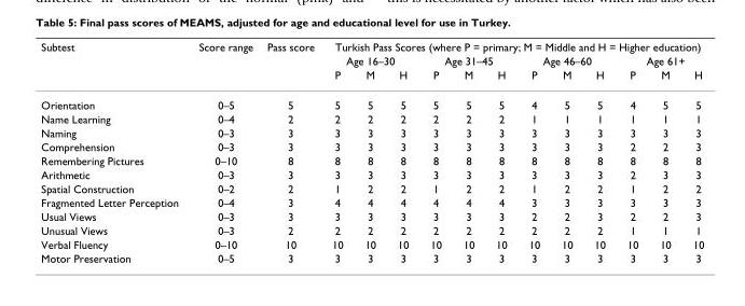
<table><thead><tr><td rowspan="3">Subtest</td><td rowspan="3">Score range</td><td rowspan="3">Pass score</td><td colspan="12">Turkish Pass Scores (where P = primary; M = Middle and H = Higher education)</td></tr><tr><td colspan="3">Age 16–30</td><td colspan="3">Age 31–45</td><td colspan="3">Age 46–60</td><td colspan="3">Age 61+</td></tr><tr><td>P</td><td>M</td><td>H</td><td>P</td><td>M</td><td>H</td><td>P</td><td>M</td><td>H</td><td>P</td><td>M</td><td>H</td></tr></thead><tbody><tr><td>Orientation</td><td>0–5</td><td>5</td><td>5</td><td>5</td><td>5</td><td>5</td><td>5</td><td>5</td><td>4</td><td>5</td><td>5</td><td>4</td><td>5</td><td>5</td></tr><tr><td>Name Learning</td><td>0–4</td><td>2</td><td>2</td><td>2</td><td>2</td><td>2</td><td>2</td><td>2</td><td>1</td><td>1</td><td>1</td><td>1</td><td>1</td><td>1</td></tr><tr><td>Naming</td><td>0–3</td><td>3</td><td>3</td><td>3</td><td>3</td><td>3</td><td>3</td><td>3</td><td>3</td><td>3</td><td>3</td><td>3</td><td>3</td><td>3</td></tr><tr><td>Comprehension</td><td>0–3</td><td>3</td><td>3</td><td>3</td><td>3</td><td>3</td><td>3</td><td>3</td><td>3</td><td>3</td><td>3</td><td>2</td><td>2</td><td>3</td></tr><tr><td>Remembering Pictures</td><td>0–10</td><td>8</td><td>8</td><td>8</td><td>8</td><td>8</td><td>8</td><td>8</td><td>8</td><td>8</td><td>8</td><td>8</td><td>8</td><td>8</td></tr><tr><td>Arithmetic</td><td>0–3</td><td>3</td><td>3</td><td>3</td><td>3</td><td>3</td><td>3</td><td>3</td><td>3</td><td>3</td><td>3</td><td>2</td><td>3</td><td>3</td></tr><tr><td>Spatial Construction</td><td>0–2</td><td>2</td><td>1</td><td>2</td><td>2</td><td>1</td><td>2</td><td>2</td><td>1</td><td>2</td><td>2</td><td>1</td><td>2</td><td>2</td></tr><tr><td>Fragmented Letter Perception</td><td>0–4</td><td>3</td><td>4</td><td>4</td><td>4</td><td>4</td><td>4</td><td>4</td><td>3</td><td>3</td><td>3</td><td>3</td><td>3</td><td>3</td></tr><tr><td>Usual Views</td><td>0–3</td><td>3</td><td>3</td><td>3</td><td>3</td><td>3</td><td>3</td><td>3</td><td>2</td><td>2</td><td>3</td><td>2</td><td>2</td><td>3</td></tr><tr><td>Unusual Views</td><td>0–3</td><td>2</td><td>2</td><td>2</td><td>2</td><td>2</td><td>2</td><td>2</td><td>2</td><td>2</td><td>2</td><td>1</td><td>1</td><td>1</td></tr><tr><td>Verbal Fluency</td><td>0–10</td><td>10</td><td>10</td><td>10</td><td>10</td><td>10</td><td>10</td><td>10</td><td>10</td><td>10</td><td>10</td><td>10</td><td>10</td><td>10</td></tr><tr><td>Motor Preservation</td><td>0–5</td><td>3</td><td>3</td><td>3</td><td>3</td><td>3</td><td>3</td><td>3</td><td>3</td><td>3</td><td>3</td><td>3</td><td>3</td><td>3</td></tr></tbody></table>